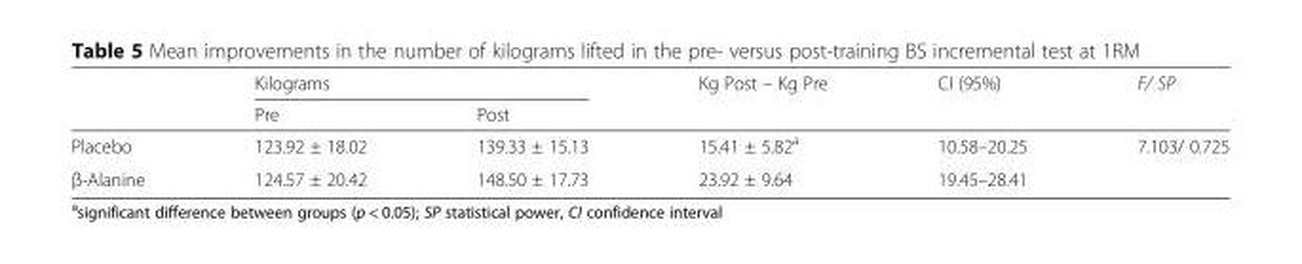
<table><thead><tr><td rowspan="2"></td><td colspan="2">Kilograms</td><td rowspan="2">Kg Post – Kg Pre</td><td rowspan="2">CI (95%)</td><td rowspan="2">F/ SP</td></tr><tr><td>Pre</td><td>Post</td></tr></thead><tbody><tr><td>Placebo</td><td>123.92 ± 18.02</td><td>139.33 ± 15.13</td><td>15.41 ± 5.82<sup>a</sup></td><td>10.58–20.25</td><td rowspan="2">7.103/ 0.725</td></tr><tr><td>β-Alanine</td><td>124.57 ± 20.42</td><td>148.50 ± 17.73</td><td>23.92 ± 9.64</td><td>19.45–28.41</td></tr></tbody></table>